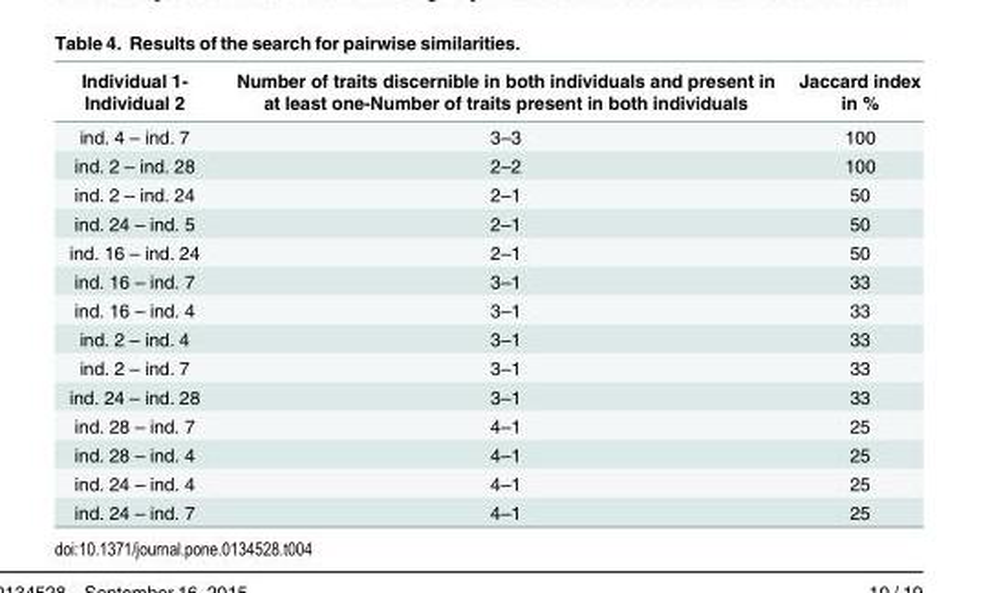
<table><thead><tr><td>Individual 1- Individual 2</td><td>Number of traits discernible in both individuals and present in at least one-Number of traits present in both individuals</td><td>Jaccard index in %</td></tr></thead><tbody><tr><td>ind. 4 – ind. 7</td><td>3–3</td><td>100</td></tr><tr><td>ind. 2 – ind. 28</td><td>2–2</td><td>100</td></tr><tr><td>ind. 2 – ind. 24</td><td>2–1</td><td>50</td></tr><tr><td>ind. 24 – ind. 5</td><td>2–1</td><td>50</td></tr><tr><td>ind. 16 – ind. 24</td><td>2–1</td><td>50</td></tr><tr><td>ind. 16 – ind. 7</td><td>3–1</td><td>33</td></tr><tr><td>ind. 16 – ind. 4</td><td>3–1</td><td>33</td></tr><tr><td>ind. 2 – ind. 4</td><td>3–1</td><td>33</td></tr><tr><td>ind. 2 – ind. 7</td><td>3–1</td><td>33</td></tr><tr><td>ind. 24 – ind. 28</td><td>3–1</td><td>33</td></tr><tr><td>ind. 28 – ind. 7</td><td>4–1</td><td>25</td></tr><tr><td>ind. 28 – ind. 4</td><td>4–1</td><td>25</td></tr><tr><td>ind. 24 – ind. 4</td><td>4–1</td><td>25</td></tr><tr><td>ind. 24 – ind. 7</td><td>4–1</td><td>25</td></tr></tbody></table>